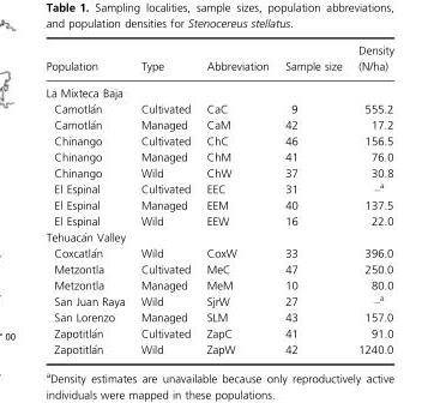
<table><thead><tr><td>Population</td><td>Type</td><td>Abbreviation</td><td>Sample size</td><td>Density (N/ha)</td></tr></thead><tbody><tr><td colspan="5">La Mixteca Baja</td></tr><tr><td>Camotl�an</td><td>Cultivated</td><td>CaC</td><td>9</td><td>555.2</td></tr><tr><td>Camotl�an</td><td>Managed</td><td>CaM</td><td>42</td><td>17.2</td></tr><tr><td>Chinango</td><td>Cultivated</td><td>ChC</td><td>46</td><td>156.5</td></tr><tr><td>Chinango</td><td>Managed</td><td>ChM</td><td>41</td><td>76.0</td></tr><tr><td>Chinango</td><td>Wild</td><td>ChW</td><td>37</td><td>30.8</td></tr><tr><td>El Espinal</td><td>Cultivated</td><td>EEC</td><td>31</td><td>–a</td></tr><tr><td>El Espinal</td><td>Managed</td><td>EEM</td><td>40</td><td>137.5</td></tr><tr><td>El Espinal</td><td>Wild</td><td>EEW</td><td>16</td><td>22.0</td></tr><tr><td colspan="5">Tehuac�an Valley</td></tr><tr><td>Coxcatl�an</td><td>Wild</td><td>CoxW</td><td>33</td><td>396.0</td></tr><tr><td>Metzontla</td><td>Cultivated</td><td>MeC</td><td>47</td><td>250.0</td></tr><tr><td>Metzontla</td><td>Managed</td><td>MeM</td><td>10</td><td>80.0</td></tr><tr><td>San Juan Raya</td><td>Wild</td><td>SjrW</td><td>27</td><td>–a</td></tr><tr><td>San Lorenzo</td><td>Managed</td><td>SLM</td><td>43</td><td>157.0</td></tr><tr><td>Zapotitl�an</td><td>Cultivated</td><td>ZapC</td><td>41</td><td>91.0</td></tr><tr><td>Zapotitl�an</td><td>Wild</td><td>ZapW</td><td>42</td><td>1240.0</td></tr></tbody></table>